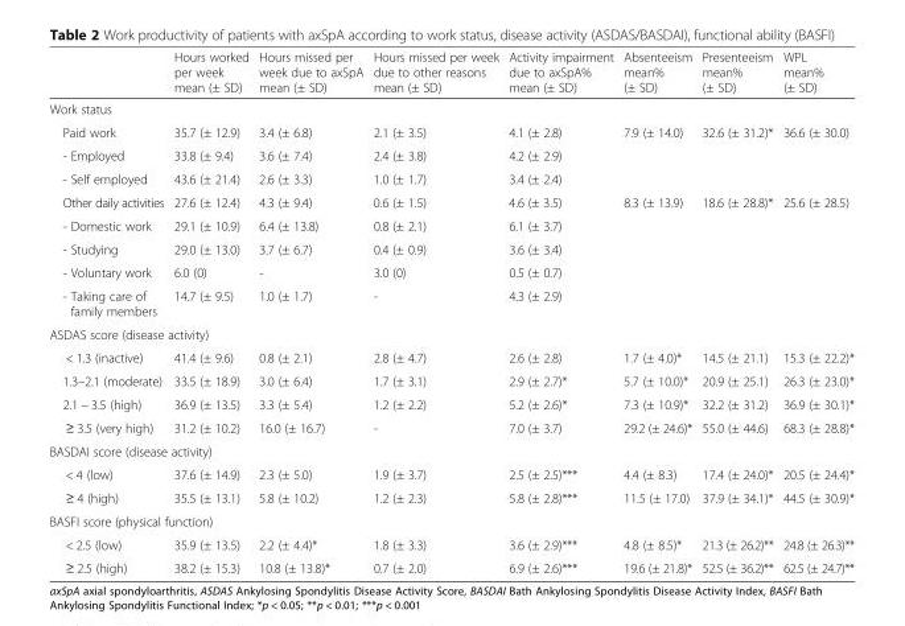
<table><thead><tr><td></td><td>Hours worked per week mean (± SD)</td><td>Hours missed per week due to axSpA mean (± SD)</td><td>Hours missed per week due to other reasons mean (± SD)</td><td>Activity impairment due to axSpA% mean (± SD)</td><td>Absenteeism mean% (± SD)</td><td>Presenteeism mean% (± SD)</td><td>WPL mean% (± SD)</td></tr></thead><tbody><tr><td colspan="8">Work status</td></tr><tr><td>Paid work</td><td>35.7 (± 12.9)</td><td>3.4 (± 6.8)</td><td>2.1 (± 3.5)</td><td>4.1 (± 2.8)</td><td>7.9 (± 14.0)</td><td>32.6 (± 31.2)*</td><td>36.6 (± 30.0)</td></tr><tr><td>- Employed</td><td>33.8 (± 9.4)</td><td>3.6 (± 7.4)</td><td>2.4 (± 3.8)</td><td>4.2 (± 2.9)</td><td></td><td></td><td></td></tr><tr><td>- Self employed</td><td>43.6 (± 21.4)</td><td>2.6 (± 3.3)</td><td>1.0 (± 1.7)</td><td>3.4 (± 2.4)</td><td></td><td></td><td></td></tr><tr><td>Other daily activities</td><td>27.6 (± 12.4)</td><td>4.3 (± 9.4)</td><td>0.6 (± 1.5)</td><td>4.6 (± 3.5)</td><td>8.3 (± 13.9)</td><td>18.6 (± 28.8)*</td><td>25.6 (± 28.5)</td></tr><tr><td>- Domestic work</td><td>29.1 (± 10.9)</td><td>6.4 (± 13.8)</td><td>0.8 (± 2.1)</td><td>6.1 (± 3.7)</td><td></td><td></td><td></td></tr><tr><td>- Studying</td><td>29.0 (± 13.0)</td><td>3.7 (± 6.7)</td><td>0.4 (± 0.9)</td><td>3.6 (± 3.4)</td><td></td><td></td><td></td></tr><tr><td>- Voluntary work</td><td>6.0 (0)</td><td>-</td><td>3.0 (0)</td><td>0.5 (± 0.7)</td><td></td><td></td><td></td></tr><tr><td>- Taking care of family members</td><td>14.7 (± 9.5)</td><td>1.0 (± 1.7)</td><td>-</td><td>4.3 (± 2.9)</td><td></td><td></td><td></td></tr><tr><td colspan="8">ASDAS score (disease activity)</td></tr><tr><td>&lt; 1.3 (inactive)</td><td>41.4 (± 9.6)</td><td>0.8 (± 2.1)</td><td>2.8 (± 4.7)</td><td>2.6 (± 2.8)</td><td>1.7 (± 4.0)*</td><td>14.5 (± 21.1)</td><td>15.3 (± 22.2)*</td></tr><tr><td>1.3–2.1 (moderate)</td><td>33.5 (± 18.9)</td><td>3.0 (± 6.4)</td><td>1.7 (± 3.1)</td><td>2.9 (± 2.7)*</td><td>5.7 (± 10.0)*</td><td>20.9 (± 25.1)</td><td>26.3 (± 23.0)*</td></tr><tr><td>2.1 − 3.5 (high)</td><td>36.9 (± 13.5)</td><td>3.3 (± 5.4)</td><td>1.2 (± 2.2)</td><td>5.2 (± 2.6)*</td><td>7.3 (± 10.9)*</td><td>32.2 (± 31.2)</td><td>36.9 (± 30.1)*</td></tr><tr><td>≥ 3.5 (very high)</td><td>31.2 (± 10.2)</td><td>16.0 (± 16.7)</td><td>-</td><td>7.0 (± 3.7)</td><td>29.2 (± 24.6)*</td><td>55.0 (± 44.6)</td><td>68.3 (± 28.8)*</td></tr><tr><td colspan="8">BASDAI score (disease activity)</td></tr><tr><td>&lt; 4 (low)</td><td>37.6 (± 14.9)</td><td>2.3 (± 5.0)</td><td>1.9 (± 3.7)</td><td>2.5 (± 2.5)***</td><td>4.4 (± 8.3)</td><td>17.4 (± 24.0)*</td><td>20.5 (± 24.4)*</td></tr><tr><td>≥ 4 (high)</td><td>35.5 (± 13.1)</td><td>5.8 (± 10.2)</td><td>1.2 (± 2.3)</td><td>5.8 (± 2.8)***</td><td>11.5 (± 17.0)</td><td>37.9 (± 34.1)*</td><td>44.5 (± 30.9)*</td></tr><tr><td colspan="8">BASFI score (physical function)</td></tr><tr><td>&lt; 2.5 (low)</td><td>35.9 (± 13.5)</td><td>2.2 (± 4.4)*</td><td>1.8 (± 3.3)</td><td>3.6 (± 2.9)***</td><td>4.8 (± 8.5)*</td><td>21.3 (± 26.2)**</td><td>24.8 (± 26.3)**</td></tr><tr><td>≥ 2.5 (high)</td><td>38.2 (± 15.3)</td><td>10.8 (± 13.8)*</td><td>0.7 (± 2.0)</td><td>6.9 (± 2.6)***</td><td>19.6 (± 21.8)*</td><td>52.5 (± 36.2)**</td><td>62.5 (± 24.7)**</td></tr></tbody></table>